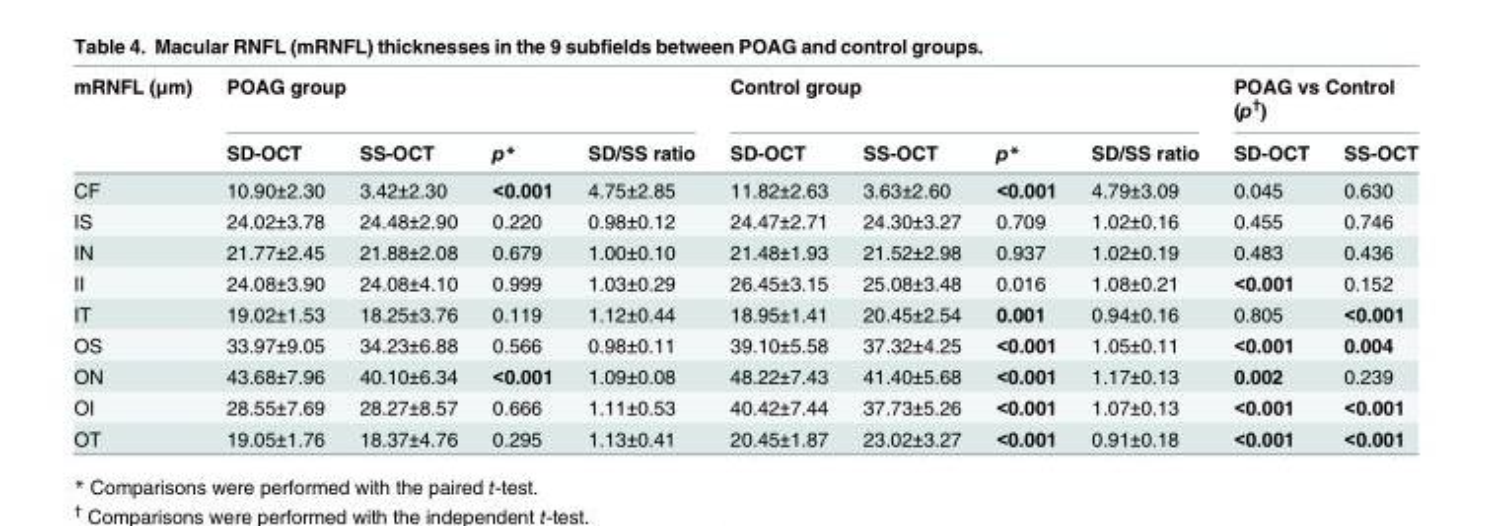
<table><thead><tr><td rowspan="2">mRNFL (μm)</td><td colspan="4">POAG group</td><td colspan="4">Control group</td><td colspan="2">POAG vs Control (p<sup>†</sup>)</td></tr><tr><td>SD-OCT</td><td>SS-OCT</td><td>p*</td><td>SD/SS ratio</td><td>SD-OCT</td><td>SS-OCT</td><td>p*</td><td>SD/SS ratio</td><td>SD-OCT</td><td>SS-OCT</td></tr></thead><tbody><tr><td>CF</td><td>10.90±2.30</td><td>3.42±2.30</td><td>&lt;0.001</td><td>4.75±2.85</td><td>11.82±2.63</td><td>3.63±2.60</td><td>&lt;0.001</td><td>4.79±3.09</td><td>0.045</td><td>0.630</td></tr><tr><td>IS</td><td>24.02±3.78</td><td>24.48±2.90</td><td>0.220</td><td>0.98±0.12</td><td>24.47±2.71</td><td>24.30±3.27</td><td>0.709</td><td>1.02±0.16</td><td>0.455</td><td>0.746</td></tr><tr><td>IN</td><td>21.77±2.45</td><td>21.88±2.08</td><td>0.679</td><td>1.00±0.10</td><td>21.48±1.93</td><td>21.52±2.98</td><td>0.937</td><td>1.02±0.19</td><td>0.483</td><td>0.436</td></tr><tr><td>II</td><td>24.08±3.90</td><td>24.08±4.10</td><td>0.999</td><td>1.03±0.29</td><td>26.45±3.15</td><td>25.08±3.48</td><td>0.016</td><td>1.08±0.21</td><td>&lt;0.001</td><td>0.152</td></tr><tr><td>IT</td><td>19.02±1.53</td><td>18.25±3.76</td><td>0.119</td><td>1.12±0.44</td><td>18.95±1.41</td><td>20.45±2.54</td><td>0.001</td><td>0.94±0.16</td><td>0.805</td><td>&lt;0.001</td></tr><tr><td>OS</td><td>33.97±9.05</td><td>34.23±6.88</td><td>0.566</td><td>0.98±0.11</td><td>39.10±5.58</td><td>37.32±4.25</td><td>&lt;0.001</td><td>1.05±0.11</td><td>&lt;0.001</td><td>0.004</td></tr><tr><td>ON</td><td>43.68±7.96</td><td>40.10±6.34</td><td>&lt;0.001</td><td>1.09±0.08</td><td>48.22±7.43</td><td>41.40±5.68</td><td>&lt;0.001</td><td>1.17±0.13</td><td>0.002</td><td>0.239</td></tr><tr><td>OI</td><td>28.55±7.69</td><td>28.27±8.57</td><td>0.666</td><td>1.11±0.53</td><td>40.42±7.44</td><td>37.73±5.26</td><td>&lt;0.001</td><td>1.07±0.13</td><td>&lt;0.001</td><td>&lt;0.001</td></tr><tr><td>OT</td><td>19.05±1.76</td><td>18.37±4.76</td><td>0.295</td><td>1.13±0.41</td><td>20.45±1.87</td><td>23.02±3.27</td><td>&lt;0.001</td><td>0.91±0.18</td><td>&lt;0.001</td><td>&lt;0.001</td></tr></tbody></table>